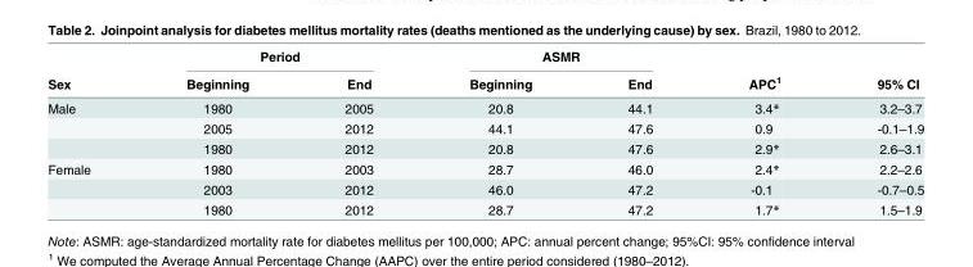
<table><thead><tr><td rowspan="2">Sex</td><td colspan="2">Period</td><td colspan="2">ASMR</td><td rowspan="2">APC<sup>1</sup></td><td rowspan="2">95% CI</td></tr><tr><td>Beginning</td><td>End</td><td>Beginning</td><td>End</td></tr></thead><tbody><tr><td rowspan="3">Male</td><td>1980</td><td>2005</td><td>20.8</td><td>44.1</td><td>3.4*</td><td>3.2–3.7</td></tr><tr><td>2005</td><td>2012</td><td>44.1</td><td>47.6</td><td>0.9</td><td>-0.1–1.9</td></tr><tr><td>1980</td><td>2012</td><td>20.8</td><td>47.6</td><td>2.9*</td><td>2.6–3.1</td></tr><tr><td rowspan="3">Female</td><td>1980</td><td>2003</td><td>28.7</td><td>46.0</td><td>2.4*</td><td>2.2–2.6</td></tr><tr><td>2003</td><td>2012</td><td>46.0</td><td>47.2</td><td>-0.1</td><td>-0.7–0.5</td></tr><tr><td>1980</td><td>2012</td><td>28.7</td><td>47.2</td><td>1.7*</td><td>1.5–1.9</td></tr></tbody></table>